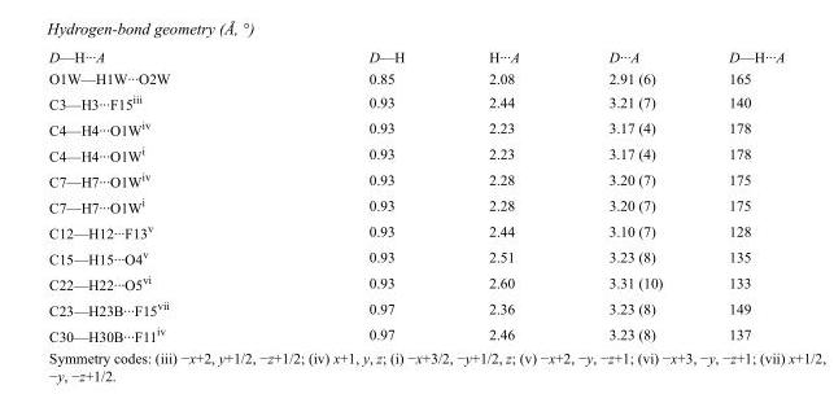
<table><tbody><tr><td>D—H···A</td><td>D—H</td><td>H···A</td><td>D···A</td><td>D—H···A</td></tr><tr><td>O1W—H1W···O2W</td><td>0.85</td><td>2.08</td><td>2.91 (6)</td><td>165</td></tr><tr><td>C3—H3···F15<sup>iii</sup></td><td>0.93</td><td>2.44</td><td>3.21 (7)</td><td>140</td></tr><tr><td>C4—H4···O1W<sup>iv</sup></td><td>0.93</td><td>2.23</td><td>3.17 (4)</td><td>178</td></tr><tr><td>C4—H4···O1W<sup>i</sup></td><td>0.93</td><td>2.23</td><td>3.17 (4)</td><td>178</td></tr><tr><td>C7—H7···O1W<sup>iv</sup></td><td>0.93</td><td>2.28</td><td>3.20 (7)</td><td>175</td></tr><tr><td>C7—H7···O1W<sup>i</sup></td><td>0.93</td><td>2.28</td><td>3.20 (7)</td><td>175</td></tr><tr><td>C12—H12···F13<sup>v</sup></td><td>0.93</td><td>2.44</td><td>3.10 (7)</td><td>128</td></tr><tr><td>C15—H15···O4<sup>v</sup></td><td>0.93</td><td>2.51</td><td>3.23 (8)</td><td>135</td></tr><tr><td>C22—H22···O5<sup>vi</sup></td><td>0.93</td><td>2.60</td><td>3.31 (10)</td><td>133</td></tr><tr><td>C23—H23B···F15<sup>vii</sup></td><td>0.97</td><td>2.36</td><td>3.23 (8)</td><td>149</td></tr><tr><td>C30—H30B···F11<sup>iv</sup></td><td>0.97</td><td>2.46</td><td>3.23 (8)</td><td>137</td></tr></tbody></table>